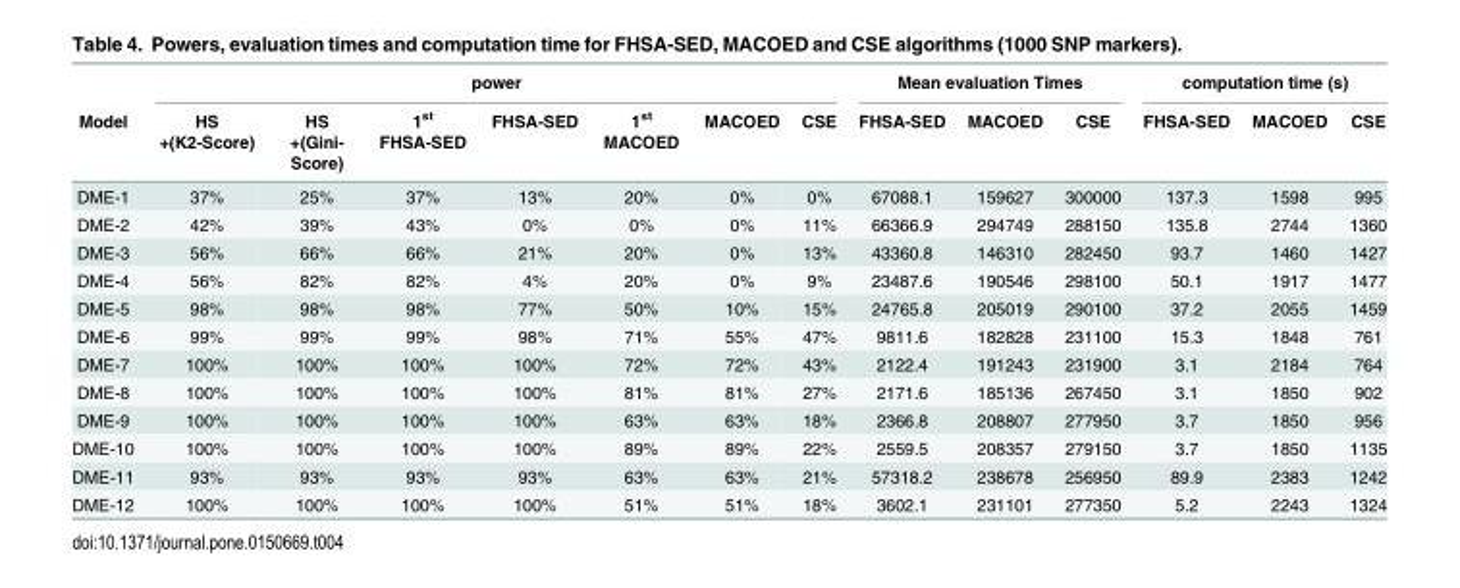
<table><thead><tr><td rowspan="2">Model</td><td colspan="7">power</td><td colspan="3">Mean evaluation Times</td><td colspan="3">computation time (s)</td></tr><tr><td>HS +(K2-Score)</td><td>HS +(Gini- Score)</td><td>1<sup>st</sup> FHSA-SED</td><td>FHSA-SED</td><td>1<sup>st</sup> MACOED</td><td>MACOED</td><td>CSE</td><td>FHSA-SED</td><td>MACOED</td><td>CSE</td><td>FHSA-SED</td><td>MACOED</td><td>CSE</td></tr></thead><tbody><tr><td>DME-1</td><td>37%</td><td>25%</td><td>37%</td><td>13%</td><td>20%</td><td>0%</td><td>0%</td><td>67088.1</td><td>159627</td><td>300000</td><td>137.3</td><td>1598</td><td>995</td></tr><tr><td>DME-2</td><td>42%</td><td>39%</td><td>43%</td><td>0%</td><td>0%</td><td>0%</td><td>11%</td><td>66366.9</td><td>294749</td><td>288150</td><td>135.8</td><td>2744</td><td>1360</td></tr><tr><td>DME-3</td><td>56%</td><td>66%</td><td>66%</td><td>21%</td><td>20%</td><td>0%</td><td>13%</td><td>43360.8</td><td>146310</td><td>282450</td><td>93.7</td><td>1460</td><td>1427</td></tr><tr><td>DME-4</td><td>56%</td><td>82%</td><td>82%</td><td>4%</td><td>20%</td><td>0%</td><td>9%</td><td>23487.6</td><td>190546</td><td>298100</td><td>50.1</td><td>1917</td><td>1477</td></tr><tr><td>DME-5</td><td>98%</td><td>98%</td><td>98%</td><td>77%</td><td>50%</td><td>10%</td><td>15%</td><td>24765.8</td><td>205019</td><td>290100</td><td>37.2</td><td>2055</td><td>1459</td></tr><tr><td>DME-6</td><td>99%</td><td>99%</td><td>99%</td><td>98%</td><td>71%</td><td>55%</td><td>47%</td><td>9811.6</td><td>182828</td><td>231100</td><td>15.3</td><td>1848</td><td>761</td></tr><tr><td>DME-7</td><td>100%</td><td>100%</td><td>100%</td><td>100%</td><td>72%</td><td>72%</td><td>43%</td><td>2122.4</td><td>191243</td><td>231900</td><td>3.1</td><td>2184</td><td>764</td></tr><tr><td>DME-8</td><td>100%</td><td>100%</td><td>100%</td><td>100%</td><td>81%</td><td>81%</td><td>27%</td><td>2171.6</td><td>185136</td><td>267450</td><td>3.1</td><td>1850</td><td>902</td></tr><tr><td>DME-9</td><td>100%</td><td>100%</td><td>100%</td><td>100%</td><td>63%</td><td>63%</td><td>18%</td><td>2366.8</td><td>208807</td><td>277950</td><td>3.7</td><td>1850</td><td>956</td></tr><tr><td>DME-10</td><td>100%</td><td>100%</td><td>100%</td><td>100%</td><td>89%</td><td>89%</td><td>22%</td><td>2559.5</td><td>208357</td><td>279150</td><td>3.7</td><td>1850</td><td>1135</td></tr><tr><td>DME-11</td><td>93%</td><td>93%</td><td>93%</td><td>93%</td><td>63%</td><td>63%</td><td>21%</td><td>57318.2</td><td>238678</td><td>256950</td><td>89.9</td><td>2383</td><td>1242</td></tr><tr><td>DME-12</td><td>100%</td><td>100%</td><td>100%</td><td>100%</td><td>51%</td><td>51%</td><td>18%</td><td>3602.1</td><td>231101</td><td>277350</td><td>5.2</td><td>2243</td><td>1324</td></tr></tbody></table>